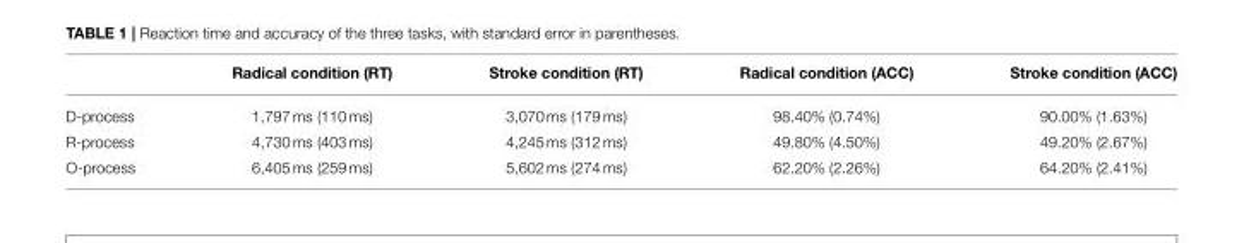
<table><thead><tr><td></td><td>Radical condition (RT)</td><td>Stroke condition (RT)</td><td>Radical condition (ACC)</td><td>Stroke condition (ACC)</td></tr></thead><tbody><tr><td>D-process</td><td>1,797 ms (110 ms)</td><td>3,070 ms (179 ms)</td><td>98.40% (0.74%)</td><td>90.00% (1.63%)</td></tr><tr><td>R-process</td><td>4,730 ms (403 ms)</td><td>4,245 ms (312 ms)</td><td>49.80% (4.50%)</td><td>49.20% (2.67%)</td></tr><tr><td>O-process</td><td>6,405 ms (259 ms)</td><td>5,602 ms (274 ms)</td><td>62.20% (2.26%)</td><td>64.20% (2.41%)</td></tr></tbody></table>